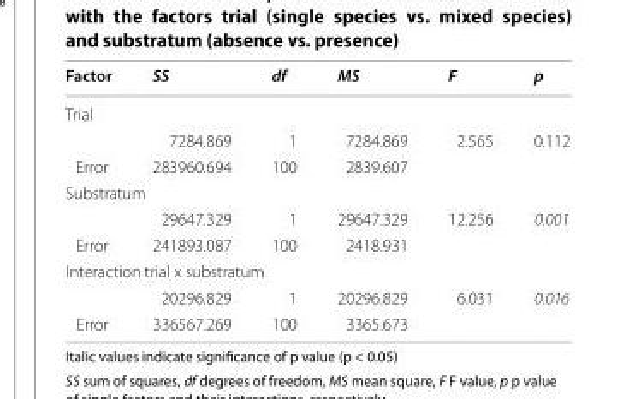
<table><thead><tr><td>Factor</td><td>SS</td><td>df</td><td>MS</td><td>F</td><td>p</td></tr></thead><tbody><tr><td colspan="6">Trial</td></tr><tr><td></td><td>7284.869</td><td>1</td><td>7284.869</td><td>2.565</td><td>0.112</td></tr><tr><td>Error</td><td>283960.694</td><td>100</td><td>2839.607</td><td></td><td></td></tr><tr><td colspan="6">Substratum</td></tr><tr><td></td><td>29647.329</td><td>1</td><td>29647.329</td><td>12.256</td><td>0.001</td></tr><tr><td>Error</td><td>241893.087</td><td>100</td><td>2418.931</td><td></td><td></td></tr><tr><td colspan="6">Interaction trial x substratum</td></tr><tr><td></td><td>20296.829</td><td>1</td><td>20296.829</td><td>6.031</td><td>0.016</td></tr><tr><td>Error</td><td>336567.269</td><td>100</td><td>3365.673</td><td></td><td></td></tr></tbody></table>